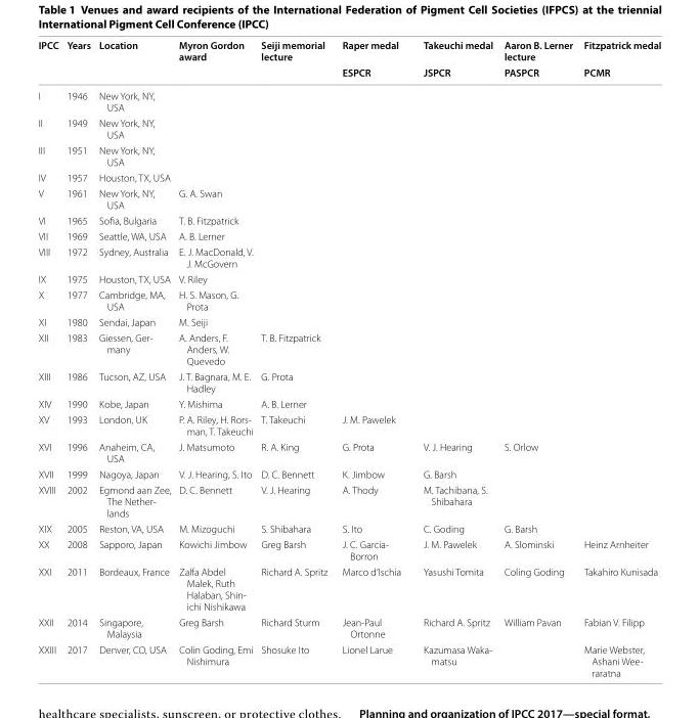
<table><thead><tr><td rowspan="2">IPCC</td><td rowspan="2">Years</td><td rowspan="2">Location</td><td rowspan="2">Myron Gordon award</td><td rowspan="2">Seiji memorial lecture</td><td rowspan="2">Raper medal ESPCR</td><td rowspan="2">Takeuchi medal JSPCR</td><td rowspan="2">Aaron B. Lerner lecture PASPCR</td><td rowspan="2">Fitzpatrick medal PCMR</td></tr><tr></tr></thead><tbody><tr><td>I</td><td>1946</td><td>New York, NY, USA</td><td></td><td></td><td></td><td></td><td></td><td></td></tr><tr><td>II</td><td>1949</td><td>New York, NY, USA</td><td></td><td></td><td></td><td></td><td></td><td></td></tr><tr><td>III</td><td>1951</td><td>New York, NY, USA</td><td></td><td></td><td></td><td></td><td></td><td></td></tr><tr><td>IV</td><td>1957</td><td>Houston, TX, USA</td><td></td><td></td><td></td><td></td><td></td><td></td></tr><tr><td>V</td><td>1961</td><td>New York, NY, USA</td><td>G. A. Swan</td><td></td><td></td><td></td><td></td><td></td></tr><tr><td>VI</td><td>1965</td><td>Sofia, Bulgaria</td><td>T. B. Fitzpatrick</td><td></td><td></td><td></td><td></td><td></td></tr><tr><td>VII</td><td>1969</td><td>Seattle, WA, USA</td><td>A. B. Lerner</td><td></td><td></td><td></td><td></td><td></td></tr><tr><td>VIII</td><td>1972</td><td>Sydney, Australia</td><td>E. J. MacDonald, V. J. McGovern</td><td></td><td></td><td></td><td></td><td></td></tr><tr><td>IX</td><td>1975</td><td>Houston, TX, USA</td><td>V. Riley</td><td></td><td></td><td></td><td></td><td></td></tr><tr><td>X</td><td>1977</td><td>Cambridge, MA, USA</td><td>H. S. Mason, G. Prota</td><td></td><td></td><td></td><td></td><td></td></tr><tr><td>XI</td><td>1980</td><td>Sendai, Japan</td><td>M. Seiji</td><td></td><td></td><td></td><td></td><td></td></tr><tr><td>XII</td><td>1983</td><td>Giessen, Ger- many</td><td>A. Anders, F. Anders, W. Quevedo</td><td>T. B. Fitzpatrick</td><td></td><td></td><td></td><td></td></tr><tr><td>XIII</td><td>1986</td><td>Tucson, AZ, USA</td><td>J. T. Bagnara, M. E. Hadley</td><td>G. Prota</td><td></td><td></td><td></td><td></td></tr><tr><td>XIV</td><td>1990</td><td>Kobe, Japan</td><td>Y. Mishima</td><td>A. B. Lerner</td><td></td><td></td><td></td><td></td></tr><tr><td>XV</td><td>1993</td><td>London, UK</td><td>P. A. Riley, H. Rors- man, T. Takeuchi</td><td>T. Takeuchi</td><td>J. M. Pawelek</td><td></td><td></td><td></td></tr><tr><td>XVI</td><td>1996</td><td>Anaheim, CA, USA</td><td>J. Matsumoto</td><td>R. A. King</td><td>G. Prota</td><td>V. J. Hearing</td><td>S. Orlow</td><td></td></tr><tr><td>XVII</td><td>1999</td><td>Nagoya, Japan</td><td>V. J. Hearing, S. Ito</td><td>D. C. Bennett</td><td>K. Jimbow</td><td>G. Barsh</td><td></td><td></td></tr><tr><td>XVIII</td><td>2002</td><td>Egmond aan Zee, The Nether- lands</td><td>D. C. Bennett</td><td>V. J. Hearing</td><td>A. Thody</td><td>M. Tachibana, S. Shibahara</td><td></td><td></td></tr><tr><td>XIX</td><td>2005</td><td>Reston, VA, USA</td><td>M. Mizoguchi</td><td>S. Shibahara</td><td>S. Ito</td><td>C. Goding</td><td>G. Barsh</td><td></td></tr><tr><td>XX</td><td>2008</td><td>Sapporo, Japan</td><td>Kowichi Jimbow</td><td>Greg Barsh</td><td>J. C. Garcia- Borron</td><td>J. M. Pawelek</td><td>A. Slominski</td><td>Heinz Arnheiter</td></tr><tr><td>XXI</td><td>2011</td><td>Bordeaux, France</td><td>Zalfa Abdel Malek, Ruth Halaban, Shin- ichi Nishikawa</td><td>Richard A. Spritz</td><td>Marco d’Ischia</td><td>Yasushi Tomita</td><td>Coling Goding</td><td>Takahiro Kunisada</td></tr><tr><td>XXII</td><td>2014</td><td>Singapore, Malaysia</td><td>Greg Barsh</td><td>Richard Sturm</td><td>Jean-Paul Ortonne</td><td>Richard A. Spritz</td><td>William Pavan</td><td>Fabian V. Filipp</td></tr><tr><td>XXIII</td><td>2017</td><td>Denver, CO, USA</td><td>Colin Goding, Emi Nishimura</td><td>Shosuke Ito</td><td>Lionel Larue</td><td>Kazumasa Waka- matsu</td><td></td><td>Marie Webster, Ashani Wee- raratna</td></tr></tbody></table>